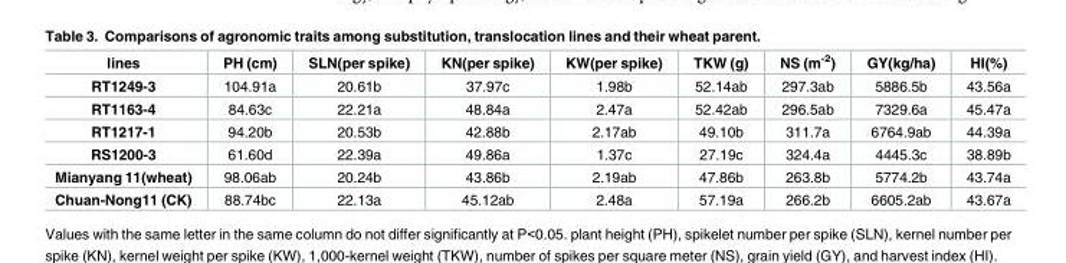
<table><thead><tr><td>lines</td><td>PH (cm)</td><td>SLN(per spike)</td><td>KN(per spike)</td><td>KW(per spike)</td><td>TKW (g)</td><td>NS (m<sup>-2</sup>)</td><td>GY(kg/ha)</td><td>HI(%)</td></tr></thead><tbody><tr><td>RT1249-3</td><td>104.91a</td><td>20.61b</td><td>37.97c</td><td>1.98b</td><td>52.14ab</td><td>297.3ab</td><td>5886.5b</td><td>43.56a</td></tr><tr><td>RT1163-4</td><td>84.63c</td><td>22.21a</td><td>48.84a</td><td>2.47a</td><td>52.42ab</td><td>296.5ab</td><td>7329.6a</td><td>45.47a</td></tr><tr><td>RT1217-1</td><td>94.20b</td><td>20.53b</td><td>42.88b</td><td>2.17ab</td><td>49.10b</td><td>311.7a</td><td>6764.9ab</td><td>44.39a</td></tr><tr><td>RS1200-3</td><td>61.60d</td><td>22.39a</td><td>49.86a</td><td>1.37c</td><td>27.19c</td><td>324.4a</td><td>4445.3c</td><td>38.89b</td></tr><tr><td>Mianyang 11(wheat)</td><td>98.06ab</td><td>20.24b</td><td>43.86b</td><td>2.19ab</td><td>47.86b</td><td>263.8b</td><td>5774.2b</td><td>43.74a</td></tr><tr><td>Chuan-Nong11 (CK)</td><td>88.74bc</td><td>22.13a</td><td>45.12ab</td><td>2.48a</td><td>57.19a</td><td>266.2b</td><td>6605.2ab</td><td>43.67a</td></tr></tbody></table>